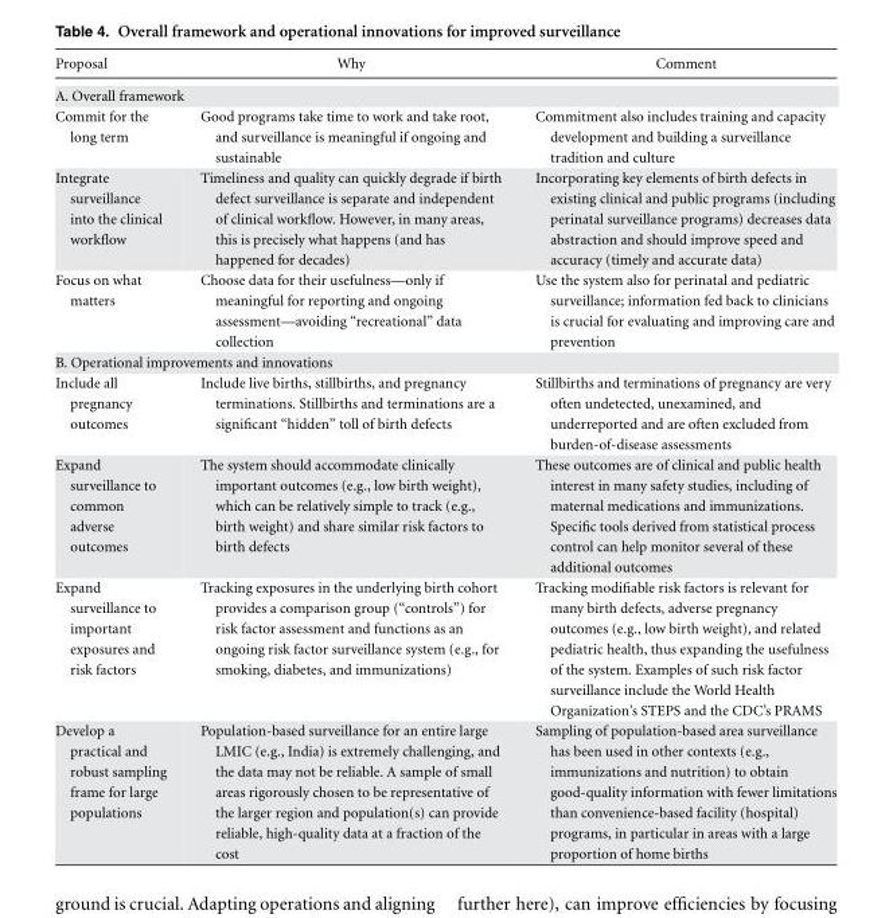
<table><thead><tr><td>Proposal</td><td>Why</td><td>Comment</td></tr></thead><tbody><tr><td colspan="3">A. Overall framework</td></tr><tr><td>Commit for the long term</td><td>Good programs take time to work and take root, and surveillance is meaningful if ongoing and sustainable</td><td>Commitment also includes training and capacity development and building a surveillance tradition and culture</td></tr><tr><td>Integrate surveillance into the clinical workflow</td><td>Timeliness and quality can quickly degrade if birth defect surveillance is separate and independent of clinical workflow. However, in many areas, this is precisely what happens (and has happened for decades)</td><td>Incorporating key elements of birth defects in existing clinical and public programs (including perinatal surveillance programs) decreases data abstraction and should improve speed and accuracy (timely and accurate data)</td></tr><tr><td>Focus on what matters</td><td>Choose data for their usefulness—only if meaningful for reporting and ongoing assessment—avoiding “recreational” data collection</td><td>Use the system also for perinatal and pediatric surveillance; information fed back to clinicians is crucial for evaluating and improving care and prevention</td></tr><tr><td colspan="3">B. Operational improvements and innovations</td></tr><tr><td>Include all pregnancy outcomes</td><td>Include live births, stillbirths, and pregnancy terminations. Stillbirths and terminations are a significant “hidden” toll of birth defects</td><td>Stillbirths and terminations of pregnancy are very often undetected, unexamined, and underreported and are often excluded from burden-of-disease assessments</td></tr><tr><td>Expand surveillance to common adverse outcomes</td><td>The system should accommodate clinically important outcomes (e.g., low birth weight), which can be relatively simple to track (e.g., birth weight) and share similar risk factors to birth defects</td><td>These outcomes are of clinical and public health interest in many safety studies, including of maternal medications and immunizations. Specific tools derived from statistical process control can help monitor several of these additional outcomes</td></tr><tr><td>Expand surveillance to important exposures and risk factors</td><td>Tracking exposures in the underlying birth cohort provides a comparison group (“controls”) for risk factor assessment and functions as an ongoing risk factor surveillance system (e.g., for smoking, diabetes, and immunizations)</td><td>Tracking modifiable risk factors is relevant for many birth defects, adverse pregnancy outcomes (e.g., low birth weight), and related pediatric health, thus expanding the usefulness of the system. Examples of such risk factor surveillance include the World Health Organization’s STEPS and the CDC’s PRAMS</td></tr><tr><td>Develop a practical and robust sampling frame for large populations</td><td>Population-based surveillance for an entire large LMIC (e.g., India) is extremely challenging, and the data may not be reliable. A sample of small areas rigorously chosen to be representative of the larger region and population(s) can provide reliable, high-quality data at a fraction of the cost</td><td>Sampling of population-based area surveillance has been used in other contexts (e.g., immunizations and nutrition) to obtain good-quality information with fewer limitations than convenience-based facility (hospital) programs, in particular in areas with a large proportion of home births</td></tr></tbody></table>